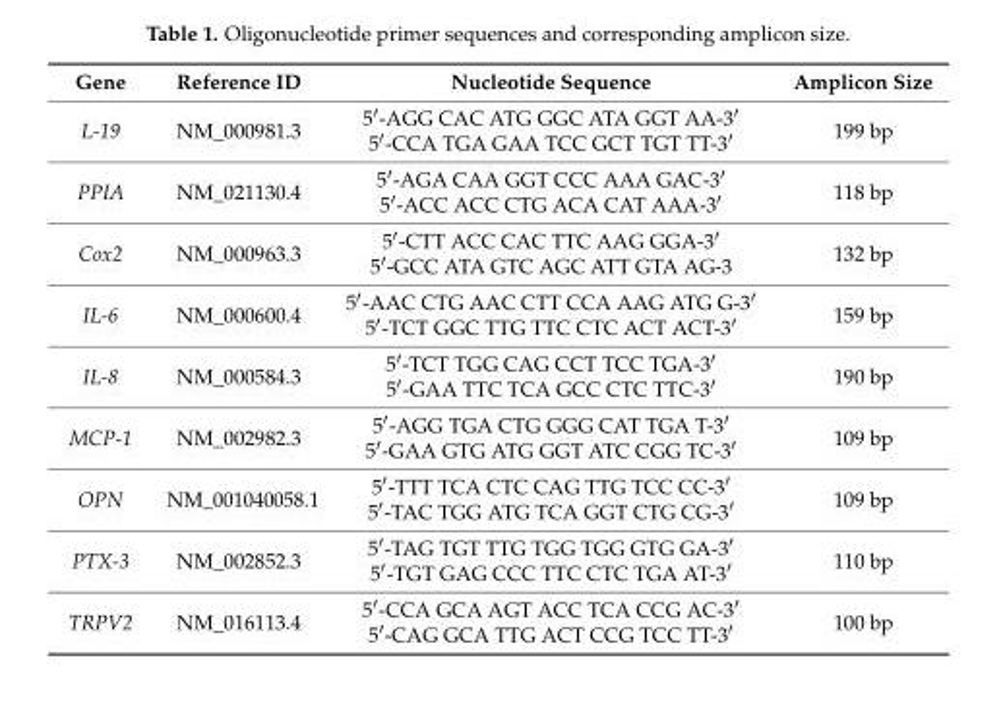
<table><thead><tr><td>Gene</td><td>Reference ID</td><td>Nucleotide Sequence</td><td>Amplicon Size</td></tr></thead><tbody><tr><td>L-19</td><td>NM_000981.3</td><td>5′-AGG CAC ATG GGC ATA GGT AA-3′ 5′-CCA TGA GAA TCC GCT TGT TT-3′</td><td>199 bp</td></tr><tr><td>PPIA</td><td>NM_021130.4</td><td>5′-AGA CAA GGT CCC AAA GAC-3′ 5′-ACC ACC CTG ACA CAT AAA-3′</td><td>118 bp</td></tr><tr><td>Cox2</td><td>NM_000963.3</td><td>5′-CTT ACC CAC TTC AAG GGA-3′ 5′-GCC ATA GTC AGC ATT GTA AG-3</td><td>132 bp</td></tr><tr><td>IL-6</td><td>NM_000600.4</td><td>5′-AAC CTG AAC CTT CCA AAG ATG G-3′ 5′-TCT GGC TTG TTC CTC ACT ACT-3′</td><td>159 bp</td></tr><tr><td>IL-8</td><td>NM_000584.3</td><td>5′-TCT TGG CAG CCT TCC TGA-3′ 5′-GAA TTC TCA GCC CTC TTC-3′</td><td>190 bp</td></tr><tr><td>MCP-1</td><td>NM_002982.3</td><td>5′-AGG TGA CTG GGG CAT TGA T-3′ 5′-GAA GTG ATG GGT ATC CGG TC-3′</td><td>109 bp</td></tr><tr><td>OPN</td><td>NM_001040058.1</td><td>5′-TTT TCA CTC CAG TTG TCC CC-3′ 5′-TAC TGG ATG TCA GGT CTG CG-3′</td><td>109 bp</td></tr><tr><td>PTX-3</td><td>NM_002852.3</td><td>5′-TAG TGT TTG TGG TGG GTG GA-3′ 5′-TGT GAG CCC TTC CTC TGA AT-3′</td><td>110 bp</td></tr><tr><td>TRPV2</td><td>NM_016113.4</td><td>5′-CCA GCA AGT ACC TCA CCG AC-3′ 5′-CAG GCA TTG ACT CCG TCC TT-3′</td><td>100 bp</td></tr></tbody></table>